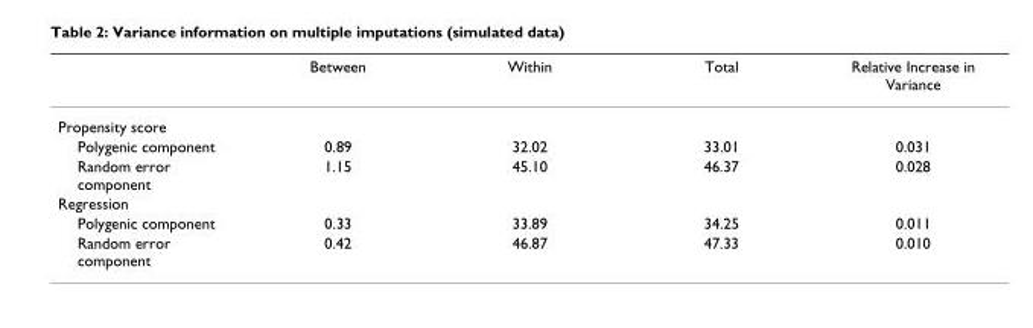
<table><thead><tr><td></td><td>Between</td><td>Within</td><td>Total</td><td>Relative Increase in Variance</td></tr></thead><tbody><tr><td colspan="5">Propensity score</td></tr><tr><td>Polygenic component</td><td>0.89</td><td>32.02</td><td>33.01</td><td>0.031</td></tr><tr><td>Random error component</td><td>1.15</td><td>45.10</td><td>46.37</td><td>0.028</td></tr><tr><td colspan="5">Regression</td></tr><tr><td>Polygenic component</td><td>0.33</td><td>33.89</td><td>34.25</td><td>0.011</td></tr><tr><td>Random error component</td><td>0.42</td><td>46.87</td><td>47.33</td><td>0.010</td></tr></tbody></table>